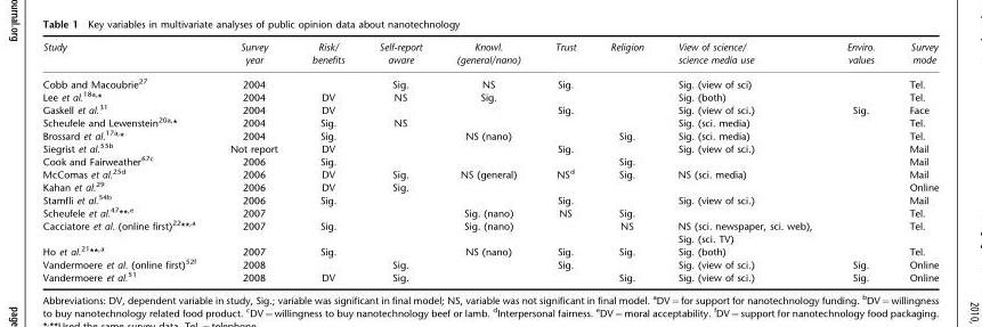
<table><thead><tr><td>Study</td><td>Survey year</td><td>Risk/ benefits</td><td>Self-report aware</td><td>Knowl. (general/nano)</td><td>Trust</td><td>Religion</td><td>View of science/ science media use</td><td>Enviro. values</td><td>Survey mode</td></tr></thead><tbody><tr><td>Cobb and Macoubrie<sup>27</sup></td><td>2004</td><td></td><td>Sig.</td><td>NS</td><td>Sig.</td><td></td><td>Sig. (view of sci)</td><td></td><td>Tel.</td></tr><tr><td>Lee et al.<sup>18a,*</sup></td><td>2004</td><td>DV</td><td>NS</td><td>Sig.</td><td></td><td></td><td>Sig. (both)</td><td></td><td>Tel.</td></tr><tr><td>Gaskell et al.<sup>31</sup></td><td>2004</td><td>DV</td><td></td><td></td><td>Sig.</td><td></td><td>Sig. (view of sci.)</td><td>Sig.</td><td>Face</td></tr><tr><td>Scheufele and Lewenstein<sup>20a,*</sup></td><td>2004</td><td>Sig.</td><td>NS</td><td></td><td></td><td></td><td>Sig. (sci. media)</td><td></td><td>Tel.</td></tr><tr><td>Brossard et al.<sup>17a,*</sup></td><td>2004</td><td>Sig.</td><td></td><td>NS (nano)</td><td></td><td>Sig.</td><td>Sig. (sci. media)</td><td></td><td>Tel.</td></tr><tr><td>Siegrist et al.<sup>55b</sup></td><td>Not report</td><td>DV</td><td></td><td></td><td>Sig.</td><td></td><td>Sig. (view of sci.)</td><td></td><td>Mail</td></tr><tr><td>Cook and Fairweather<sup>67c</sup></td><td>2006</td><td>Sig.</td><td></td><td></td><td></td><td>Sig.</td><td></td><td></td><td>Mail</td></tr><tr><td>McComas et al.<sup>25d</sup></td><td>2006</td><td>DV</td><td>Sig.</td><td>NS (general)</td><td>NS<sup>d</sup></td><td>Sig.</td><td>NS (sci. media)</td><td></td><td>Mail</td></tr><tr><td>Kahan et al.<sup>29</sup></td><td>2006</td><td>DV</td><td>Sig.</td><td></td><td></td><td></td><td></td><td></td><td>Online</td></tr><tr><td>Stamfli et al.<sup>54b</sup></td><td>2006</td><td>Sig.</td><td></td><td></td><td>Sig.</td><td></td><td>Sig. (view of sci.)</td><td></td><td>Mail</td></tr><tr><td>Scheufele et al.<sup>47**,e</sup></td><td>2007</td><td></td><td></td><td>Sig. (nano)</td><td>NS</td><td>Sig.</td><td></td><td></td><td>Tel.</td></tr><tr><td rowspan="2">Cacciatore et al. (online first)<sup>22**,a</sup></td><td>2007</td><td>Sig.</td><td></td><td>Sig. (nano)</td><td></td><td>NS</td><td>NS (sci. newspaper, sci. web),</td><td></td><td>Tel.</td></tr><tr><td></td><td></td><td></td><td></td><td></td><td></td><td>Sig. (sci. TV)</td><td></td><td></td></tr><tr><td>Ho et al.21**,a</td><td>2007</td><td>Sig.</td><td></td><td>NS (nano)</td><td>Sig.</td><td>Sig.</td><td>Sig. (both)</td><td></td><td>Tel.</td></tr><tr><td>Vandermoere et al. (online first)<sup>52f</sup></td><td>2008</td><td></td><td>Sig.</td><td></td><td>Sig.</td><td></td><td>Sig. (view of sci.)</td><td>Sig.</td><td>Online</td></tr><tr><td>Vandermoere et al.51</td><td>2008</td><td>DV</td><td>Sig.</td><td></td><td></td><td>Sig.</td><td>Sig. (view of sci.)</td><td>Sig.</td><td>Online</td></tr></tbody></table>